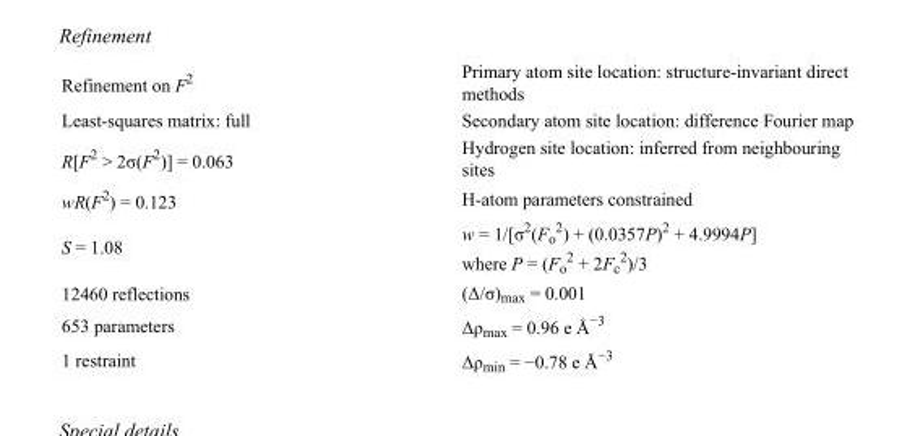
<table><tbody><tr><td>Refinement on F<sup>2</sup></td><td>Primary atom site location: structure-invariant direct methods</td></tr><tr><td>Least-squares matrix: full</td><td>Secondary atom site location: difference Fourier map</td></tr><tr><td>R[F<sup>2</sup> &gt; 2σ(F<sup>2</sup>)] = 0.063</td><td>Hydrogen site location: inferred from neighbouring sites</td></tr><tr><td>wR(F<sup>2</sup>) = 0.123</td><td>H-atom parameters constrained</td></tr><tr><td>S = 1.08</td><td>w = 1/[σ<sup>2</sup>(F<sub>o</sub> <sup>2</sup>) + (0.0357P)<sup>2</sup> + 4.9994P] where P = (F<sub>o</sub> <sup>2</sup> + 2F<sub>c</sub> <sup>2</sup>)/3</td></tr><tr><td>12460 reflections</td><td>(Δ/σ)<sub>max</sub> = 0.001</td></tr><tr><td>653 parameters</td><td>Δρ<sub>max</sub> = 0.96 e Å<sup>−3</sup></td></tr><tr><td>1 restraint</td><td>Δρ<sub>min</sub> = −0.78 e Å<sup>−3</sup></td></tr></tbody></table>